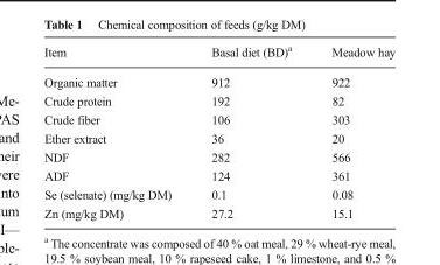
<table><thead><tr><td>Item</td><td>Basal diet (BD)<sup>a</sup></td><td>Meadow hay</td></tr></thead><tbody><tr><td>Organic matter</td><td>912</td><td>922</td></tr><tr><td>Crude protein</td><td>192</td><td>82</td></tr><tr><td>Crude fiber</td><td>106</td><td>303</td></tr><tr><td>Ether extract</td><td>36</td><td>20</td></tr><tr><td>NDF</td><td>282</td><td>566</td></tr><tr><td>ADF</td><td>124</td><td>361</td></tr><tr><td>Se (selenate) (mg/kg DM)</td><td>0.1</td><td>0.08</td></tr><tr><td>Zn (mg/kg DM)</td><td>27.2</td><td>15.1</td></tr></tbody></table>